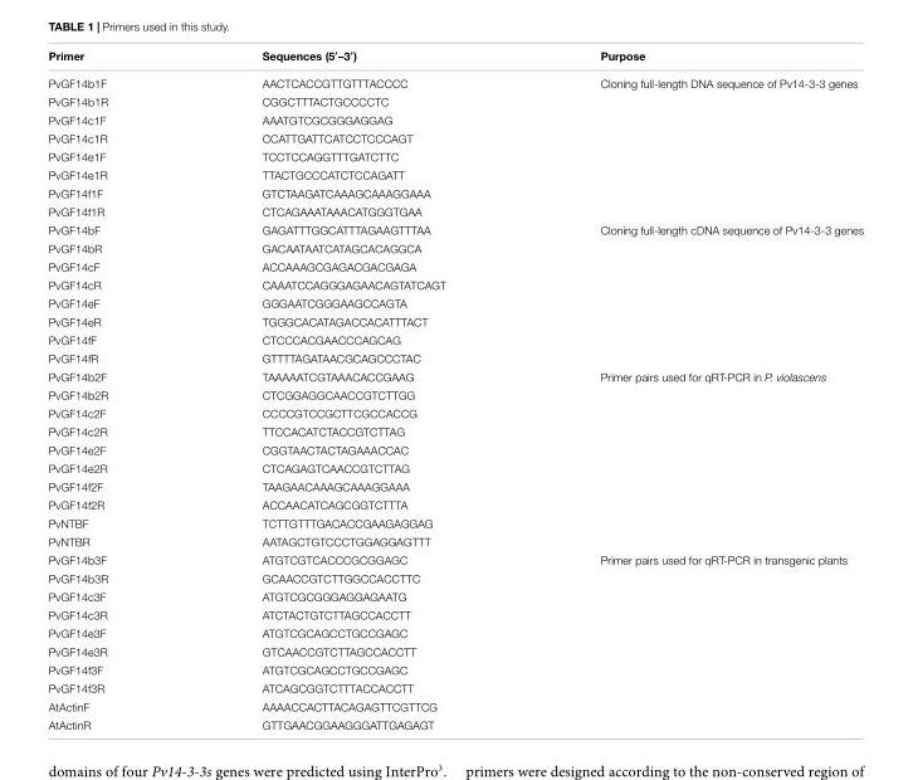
<table><thead><tr><td>Primer</td><td>Sequences (5′–3′)</td><td>Purpose</td></tr></thead><tbody><tr><td>PvGF14b1F</td><td>AACTCACCGTTGTTTACCCC</td><td>Cloning full-length DNA sequence of Pv14-3-3 genes</td></tr><tr><td>PvGF14b1R</td><td>CGGCTTTACTGCCCCTC</td><td></td></tr><tr><td>PvGF14c1F</td><td>AAATGTCGCGGGAGGAG</td><td></td></tr><tr><td>PvGF14c1R</td><td>CCATTGATTCATCCTCCCAGT</td><td></td></tr><tr><td>PvGF14e1F</td><td>TCCTCCAGGTTTGATCTTC</td><td></td></tr><tr><td>PvGF14e1R</td><td>TTACTGCCCATCTCCAGATT</td><td></td></tr><tr><td>PvGF14f1F</td><td>GTCTAAGATCAAAGCAAAGGAAA</td><td></td></tr><tr><td>PvGF14f1R</td><td>CTCAGAAATAAACATGGGTGAA</td><td></td></tr><tr><td>PvGF14bF</td><td>GAGATTTGGCATTTAGAAGTTTAA</td><td>Cloning full-length cDNA sequence of Pv14-3-3 genes</td></tr><tr><td>PvGF14bR</td><td>GACAATAATCATAGCACAGGCA</td><td></td></tr><tr><td>PvGF14cF</td><td>ACCAAAGCGAGACGACGAGA</td><td></td></tr><tr><td>PvGF14cR</td><td>CAAATCCAGGGAGAACAGTATCAGT</td><td></td></tr><tr><td>PvGF14eF</td><td>GGGAATCGGGAAGCCAGTA</td><td></td></tr><tr><td>PvGF14eR</td><td>TGGGCACATAGACCACATTTACT</td><td></td></tr><tr><td>PvGF14fF</td><td>CTCCCACGAACCCAGCAG</td><td></td></tr><tr><td>PvGF14fR</td><td>GTTTTAGATAACGCAGCCCTAC</td><td></td></tr><tr><td>PvGF14b2F</td><td>TAAAAATCGTAAACACCGAAG</td><td>Primer pairs used for qRT-PCR in P. violascens</td></tr><tr><td>PvGF14b2R</td><td>CTCGGAGGCAACCGTCTTGG</td><td></td></tr><tr><td>PvGF14c2F</td><td>CCCCGTCCGCTTCGCCACCG</td><td></td></tr><tr><td>PvGF14c2R</td><td>TTCCACATCTACCGTCTTAG</td><td></td></tr><tr><td>PvGF14e2F</td><td>CGGTAACTACTAGAAACCAC</td><td></td></tr><tr><td>PvGF14e2R</td><td>CTCAGAGTCAACCGTCTTAG</td><td></td></tr><tr><td>PvGF14f2F</td><td>TAAGAACAAAGCAAAGGAAA</td><td></td></tr><tr><td>PvGF14f2R</td><td>ACCAACATCAGCGGTCTTTA</td><td></td></tr><tr><td>PvNTBF</td><td>TCTTGTTTGACACCGAAGAGGAG</td><td></td></tr><tr><td>PvNTBR</td><td>AATAGCTGTCCCTGGAGGAGTTT</td><td></td></tr><tr><td>PvGF14b3F</td><td>ATGTCGTCACCCGCGGAGC</td><td>Primer pairs used for qRT-PCR in transgenic plants</td></tr><tr><td>PvGF14b3R</td><td>GCAACCGTCTTGGCCACCTTC</td><td></td></tr><tr><td>PvGF14c3F</td><td>ATGTCGCGGGAGGAGAATG</td><td></td></tr><tr><td>PvGF14c3R</td><td>ATCTACTGTCTTAGCCACCTT</td><td></td></tr><tr><td>PvGF14e3F</td><td>ATGTCGCAGCCTGCCGAGC</td><td></td></tr><tr><td>PvGF14e3R</td><td>GTCAACCGTCTTAGCCACCTT</td><td></td></tr><tr><td>PvGF14f3F</td><td>ATGTCGCAGCCTGCCGAGC</td><td></td></tr><tr><td>PvGF14f3R</td><td>ATCAGCGGTCTTTACCACCTT</td><td></td></tr><tr><td>AtActinF</td><td>AAAACCACTTACAGAGTTCGTTCG</td><td></td></tr><tr><td>AtActinR</td><td>GTTGAACGGAAGGGATTGAGAGT</td><td></td></tr></tbody></table>